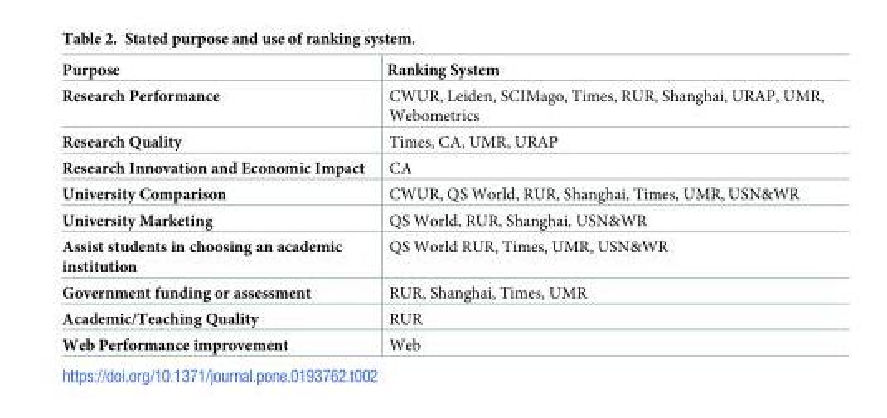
<table><thead><tr><td>Purpose</td><td>Ranking System</td></tr></thead><tbody><tr><td>Research Performance</td><td>CWUR, Leiden, SCIMago, Times, RUR, Shanghai, URAP, UMR, Webometrics</td></tr><tr><td>Research Quality</td><td>Times, CA, UMR, URAP</td></tr><tr><td>Research Innovation and Economic Impact</td><td>CA</td></tr><tr><td>University Comparison</td><td>CWUR, QS World, RUR, Shanghai, Times, UMR, USN&amp;WR</td></tr><tr><td>University Marketing</td><td>QS World, RUR, Shanghai, USN&amp;WR</td></tr><tr><td>Assist students in choosing an academic institution</td><td>QS World RUR, Times, UMR, USN&amp;WR</td></tr><tr><td>Government funding or assessment</td><td>RUR, Shanghai, Times, UMR</td></tr><tr><td>Academic/Teaching Quality</td><td>RUR</td></tr><tr><td>Web Performance improvement</td><td>Web</td></tr></tbody></table>